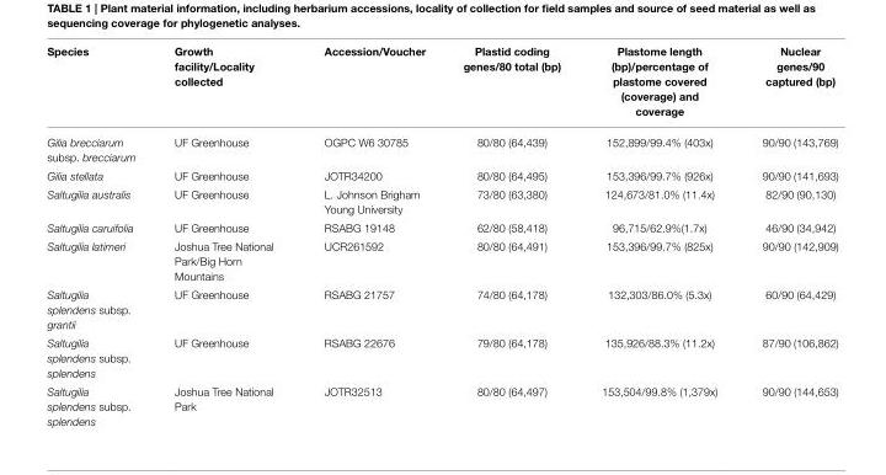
<table><thead><tr><td>Species</td><td>Growth facility/Locality collected</td><td>Accession/Voucher</td><td>Plastid coding genes/80 total (bp)</td><td>Plastome length (bp)/percentage of plastome covered (coverage) and coverage</td><td>Nuclear genes/90 captured (bp)</td></tr></thead><tbody><tr><td>Gilia brecciarum subsp. brecciarum</td><td>UF Greenhouse</td><td>OGPC W6 30785</td><td>80/80 (64,439)</td><td>152,899/99.4% (403x)</td><td>90/90 (143,769)</td></tr><tr><td>Gilia stellata</td><td>UF Greenhouse</td><td>JOTR34200</td><td>80/80 (64,495)</td><td>153,396/99.7% (926x)</td><td>90/90 (141,693)</td></tr><tr><td>Saltugilia australis</td><td>UF Greenhouse</td><td>L. Johnson Brigham Young University</td><td>73/80 (63,380)</td><td>124,673/81.0% (11.4x)</td><td>82/90 (90,130)</td></tr><tr><td>Saltugilia caruifolia</td><td>UF Greenhouse</td><td>RSABG 19148</td><td>62/80 (58,418)</td><td>96,715/62.9%(1.7x)</td><td>46/90 (34,942)</td></tr><tr><td>Saltugilia latimeri</td><td>Joshua Tree National Park/Big Horn Mountains</td><td>UCR261592</td><td>80/80 (64,491)</td><td>153,396/99.7% (825x)</td><td>90/90 (142,909)</td></tr><tr><td>Saltugilia splendens subsp. grantii</td><td>UF Greenhouse</td><td>RSABG 21757</td><td>74/80 (64,178)</td><td>132,303/86.0% (5.3x)</td><td>60/90 (64,429)</td></tr><tr><td>Saltugilia splendens subsp. splendens</td><td>UF Greenhouse</td><td>RSABG 22676</td><td>79/80 (64,178)</td><td>135,926/88.3% (11.2x)</td><td>87/90 (106,862)</td></tr><tr><td>Saltugilia splendens subsp. splendens</td><td>Joshua Tree National Park</td><td>JOTR32513</td><td>80/80 (64,497)</td><td>153,504/99.8% (1,379x)</td><td>90/90 (144,653)</td></tr></tbody></table>